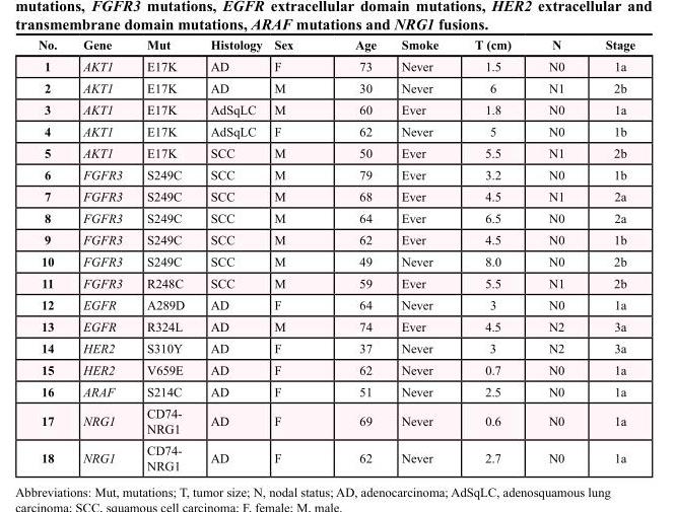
<table><thead><tr><td>No.</td><td>Gene</td><td>Mut</td><td>Histology</td><td>Sex</td><td>Age</td><td>Smoke</td><td>T (cm)</td><td>N</td><td>Stage</td></tr></thead><tbody><tr><td>1</td><td>AKT1</td><td>E17K</td><td>AD</td><td>F</td><td>73</td><td>Never</td><td>1.5</td><td>N0</td><td>1a</td></tr><tr><td>2</td><td>AKT1</td><td>E17K</td><td>AD</td><td>M</td><td>30</td><td>Never</td><td>6</td><td>N1</td><td>2b</td></tr><tr><td>3</td><td>AKT1</td><td>E17K</td><td>AdSqLC</td><td>M</td><td>60</td><td>Ever</td><td>1.8</td><td>N0</td><td>1a</td></tr><tr><td>4</td><td>AKT1</td><td>E17K</td><td>AdSqLC</td><td>F</td><td>62</td><td>Never</td><td>5</td><td>N0</td><td>1b</td></tr><tr><td>5</td><td>AKT1</td><td>E17K</td><td>SCC</td><td>M</td><td>50</td><td>Ever</td><td>5.5</td><td>N1</td><td>2b</td></tr><tr><td>6</td><td>FGFR3</td><td>S249C</td><td>SCC</td><td>M</td><td>79</td><td>Ever</td><td>3.2</td><td>N0</td><td>1b</td></tr><tr><td>7</td><td>FGFR3</td><td>S249C</td><td>SCC</td><td>M</td><td>68</td><td>Ever</td><td>4.5</td><td>N1</td><td>2a</td></tr><tr><td>8</td><td>FGFR3</td><td>S249C</td><td>SCC</td><td>M</td><td>64</td><td>Ever</td><td>6.5</td><td>N0</td><td>2a</td></tr><tr><td>9</td><td>FGFR3</td><td>S249C</td><td>SCC</td><td>M</td><td>62</td><td>Ever</td><td>4.5</td><td>N0</td><td>1b</td></tr><tr><td>10</td><td>FGFR3</td><td>S249C</td><td>SCC</td><td>M</td><td>49</td><td>Never</td><td>8.0</td><td>N0</td><td>2b</td></tr><tr><td>11</td><td>FGFR3</td><td>R248C</td><td>SCC</td><td>M</td><td>59</td><td>Ever</td><td>5.5</td><td>N1</td><td>2b</td></tr><tr><td>12</td><td>EGFR</td><td>A289D</td><td>AD</td><td>F</td><td>64</td><td>Never</td><td>3</td><td>N0</td><td>1a</td></tr><tr><td>13</td><td>EGFR</td><td>R324L</td><td>AD</td><td>M</td><td>74</td><td>Ever</td><td>4.5</td><td>N2</td><td>3a</td></tr><tr><td>14</td><td>HER2</td><td>S310Y</td><td>AD</td><td>F</td><td>37</td><td>Never</td><td>3</td><td>N2</td><td>3a</td></tr><tr><td>15</td><td>HER2</td><td>V659E</td><td>AD</td><td>F</td><td>62</td><td>Never</td><td>0.7</td><td>N0</td><td>1a</td></tr><tr><td>16</td><td>ARAF</td><td>S214C</td><td>AD</td><td>F</td><td>51</td><td>Never</td><td>2.5</td><td>N0</td><td>1a</td></tr><tr><td>17</td><td>NRG1</td><td>CD74- NRG1</td><td>AD</td><td>F</td><td>69</td><td>Never</td><td>0.6</td><td>N0</td><td>1a</td></tr><tr><td>18</td><td>NRG1</td><td>CD74- NRG1</td><td>AD</td><td>F</td><td>62</td><td>Never</td><td>2.7</td><td>N0</td><td>1a</td></tr></tbody></table>